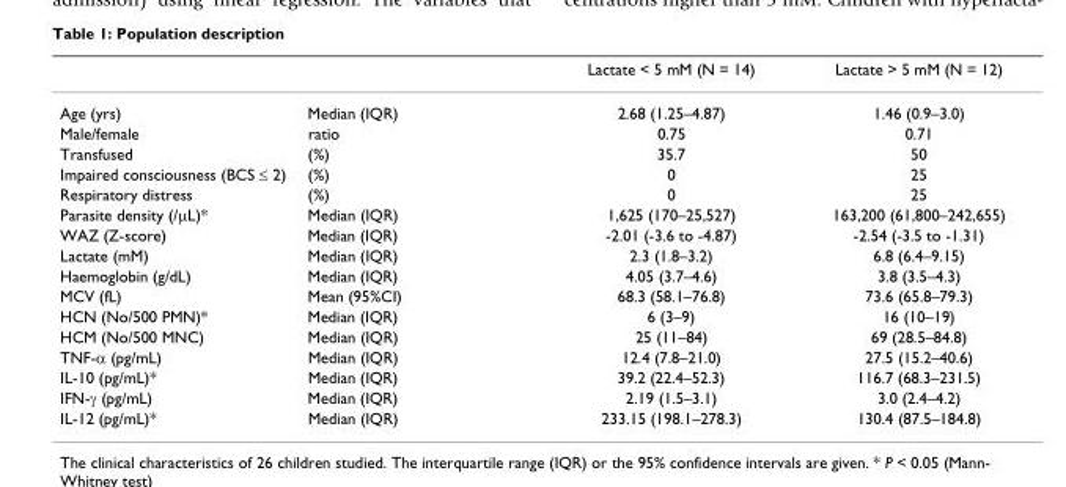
<table><thead><tr><td></td><td></td><td>Lactate &lt; 5 mM (N = 14)</td><td>Lactate &gt; 5 mM (N = 12)</td></tr></thead><tbody><tr><td>Age (yrs)</td><td>Median (IQR)</td><td>2.68 (1.25–4.87)</td><td>1.46 (0.9–3.0)</td></tr><tr><td>Male/female</td><td>ratio</td><td>0.75</td><td>0.71</td></tr><tr><td>Transfused</td><td>(%)</td><td>35.7</td><td>50</td></tr><tr><td>Impaired consciousness (BCS ≤ 2)</td><td>(%)</td><td>0</td><td>25</td></tr><tr><td>Respiratory distress</td><td>(%)</td><td>0</td><td>25</td></tr><tr><td>Parasite density (/µL)*</td><td>Median (IQR)</td><td>1,625 (170–25,527)</td><td>163,200 (61,800–242,655)</td></tr><tr><td>WAZ (Z-score)</td><td>Median (IQR)</td><td>-2.01 (-3.6 to -4.87)</td><td>-2.54 (-3.5 to -1.31)</td></tr><tr><td>Lactate (mM)</td><td>Median (IQR)</td><td>2.3 (1.8–3.2)</td><td>6.8 (6.4–9.15)</td></tr><tr><td>Haemoglobin (g/dL)</td><td>Median (IQR)</td><td>4.05 (3.7–4.6)</td><td>3.8 (3.5–4.3)</td></tr><tr><td>MCV (fL)</td><td>Mean (95%CI)</td><td>68.3 (58.1–76.8)</td><td>73.6 (65.8–79.3)</td></tr><tr><td>HCN (No/500 PMN)*</td><td>Median (IQR)</td><td>6 (3–9)</td><td>16 (10–19)</td></tr><tr><td>HCM (No/500 MNC)</td><td>Median (IQR)</td><td>25 (11–84)</td><td>69 (28.5–84.8)</td></tr><tr><td>TNF-α (pg/mL)</td><td>Median (IQR)</td><td>12.4 (7.8–21.0)</td><td>27.5 (15.2–40.6)</td></tr><tr><td>IL-10 (pg/mL)*</td><td>Median (IQR)</td><td>39.2 (22.4–52.3)</td><td>116.7 (68.3–231.5)</td></tr><tr><td>IFN-γ (pg/mL)</td><td>Median (IQR)</td><td>2.19 (1.5–3.1)</td><td>3.0 (2.4–4.2)</td></tr><tr><td>IL-12 (pg/mL)*</td><td>Median (IQR)</td><td>233.15 (198.1–278.3)</td><td>130.4 (87.5–184.8)</td></tr></tbody></table>